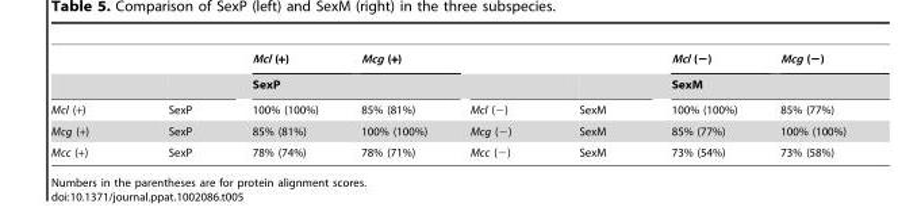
<table><thead><tr><td rowspan="2"></td><td rowspan="2"></td><td>Mcl (+)</td><td>Mcg (+)</td><td rowspan="2"></td><td rowspan="2"></td><td>Mcl (−)</td><td>Mcg (−)</td></tr><tr><td colspan="2">SexP</td><td colspan="2">SexM</td></tr></thead><tbody><tr><td>Mcl (+)</td><td>SexP</td><td>100% (100%)</td><td>85% (81%)</td><td>Mcl (−)</td><td>SexM</td><td>100% (100%)</td><td>85% (77%)</td></tr><tr><td>Mcg (+)</td><td>SexP</td><td>85% (81%)</td><td>100% (100%)</td><td>Mcg (−)</td><td>SexM</td><td>85% (77%)</td><td>100% (100%)</td></tr><tr><td>Mcc (+)</td><td>SexP</td><td>78% (74%)</td><td>78% (71%)</td><td>Mcc (−)</td><td>SexM</td><td>73% (54%)</td><td>73% (58%)</td></tr></tbody></table>